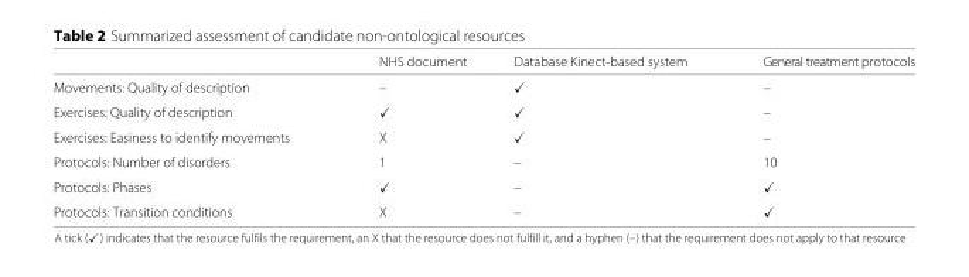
<table><thead><tr><td></td><td>NHS document</td><td>Database Kinect-based system</td><td>General treatment protocols</td></tr></thead><tbody><tr><td>Movements: Quality of description</td><td>–</td><td>✓</td><td>–</td></tr><tr><td>Exercises: Quality of description</td><td>✓</td><td>✓</td><td>–</td></tr><tr><td>Exercises: Easiness to identify movements</td><td>X</td><td>✓</td><td>–</td></tr><tr><td>Protocols: Number of disorders</td><td>1</td><td>–</td><td>10</td></tr><tr><td>Protocols: Phases</td><td>✓</td><td>–</td><td>✓</td></tr><tr><td>Protocols: Transition conditions</td><td>X</td><td>–</td><td>✓</td></tr></tbody></table>